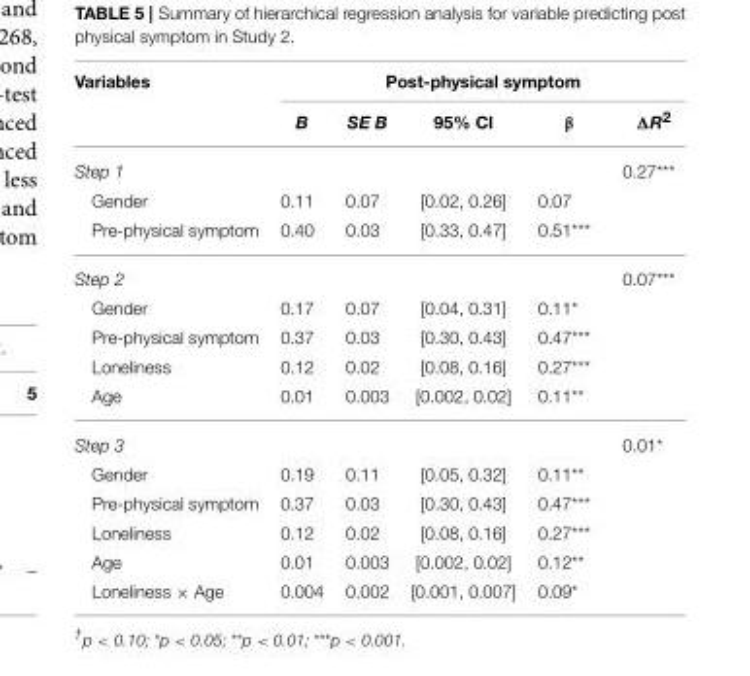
<table><thead><tr><td rowspan="2">Variables</td><td colspan="5">Post-physical symptom</td></tr><tr><td>B</td><td>SE B</td><td>95% CI</td><td>β</td><td>ΔR<sup>2</sup></td></tr></thead><tbody><tr><td>Step 1</td><td></td><td></td><td></td><td></td><td>0.27***</td></tr><tr><td>Gender</td><td>0.11</td><td>0.07</td><td>[0.02, 0.26]</td><td>0.07</td><td></td></tr><tr><td>Pre-physical symptom</td><td>0.40</td><td>0.03</td><td>[0.33, 0.47]</td><td>0.51***</td><td></td></tr><tr><td>Step 2</td><td></td><td></td><td></td><td></td><td>0.07***</td></tr><tr><td>Gender</td><td>0.17</td><td>0.07</td><td>[0.04, 0.31]</td><td>0.11*</td><td></td></tr><tr><td>Pre-physical symptom</td><td>0.37</td><td>0.03</td><td>[0.30, 0.43]</td><td>0.47***</td><td></td></tr><tr><td>Loneliness</td><td>0.12</td><td>0.02</td><td>[0.08, 0.16]</td><td>0.27***</td><td></td></tr><tr><td>Age</td><td>0.01</td><td>0.003</td><td>[0.002, 0.02]</td><td>0.11**</td><td></td></tr><tr><td>Step 3</td><td></td><td></td><td></td><td></td><td>0.01*</td></tr><tr><td>Gender</td><td>0.19</td><td>0.11</td><td>[0.05, 0.32]</td><td>0.11**</td><td></td></tr><tr><td>Pre-physical symptom</td><td>0.37</td><td>0.03</td><td>[0.30, 0.43]</td><td>0.47***</td><td></td></tr><tr><td>Loneliness</td><td>0.12</td><td>0.02</td><td>[0.08, 0.16]</td><td>0.27***</td><td></td></tr><tr><td>Age</td><td>0.01</td><td>0.003</td><td>[0.002, 0.02]</td><td>0.12**</td><td></td></tr><tr><td>Loneliness × Age</td><td>0.004</td><td>0.002</td><td>[0.001, 0.007]</td><td>0.09*</td><td></td></tr></tbody></table>